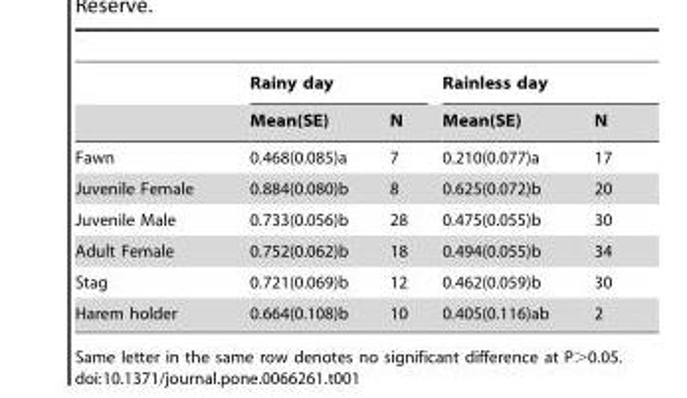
<table><thead><tr><td rowspan="2"></td><td colspan="2">Rainy day</td><td colspan="2">Rainless day</td></tr><tr><td>Mean(SE)</td><td>N</td><td>Mean(SE)</td><td>N</td></tr></thead><tbody><tr><td>Fawn</td><td>0.468(0.085)a</td><td>7</td><td>0.210(0.077)a</td><td>17</td></tr><tr><td>Juvenile Female</td><td>0.884(0.080)b</td><td>8</td><td>0.625(0.072)b</td><td>20</td></tr><tr><td>Juvenile Male</td><td>0.733(0.056)b</td><td>28</td><td>0.475(0.055)b</td><td>30</td></tr><tr><td>Adult Female</td><td>0.752(0.062)b</td><td>18</td><td>0.494(0.055)b</td><td>34</td></tr><tr><td>Stag</td><td>0.721(0.069)b</td><td>12</td><td>0.462(0.059)b</td><td>30</td></tr><tr><td>Harem holder</td><td>0.664(0.108)b</td><td>10</td><td>0.405(0.116)ab</td><td>2</td></tr></tbody></table>